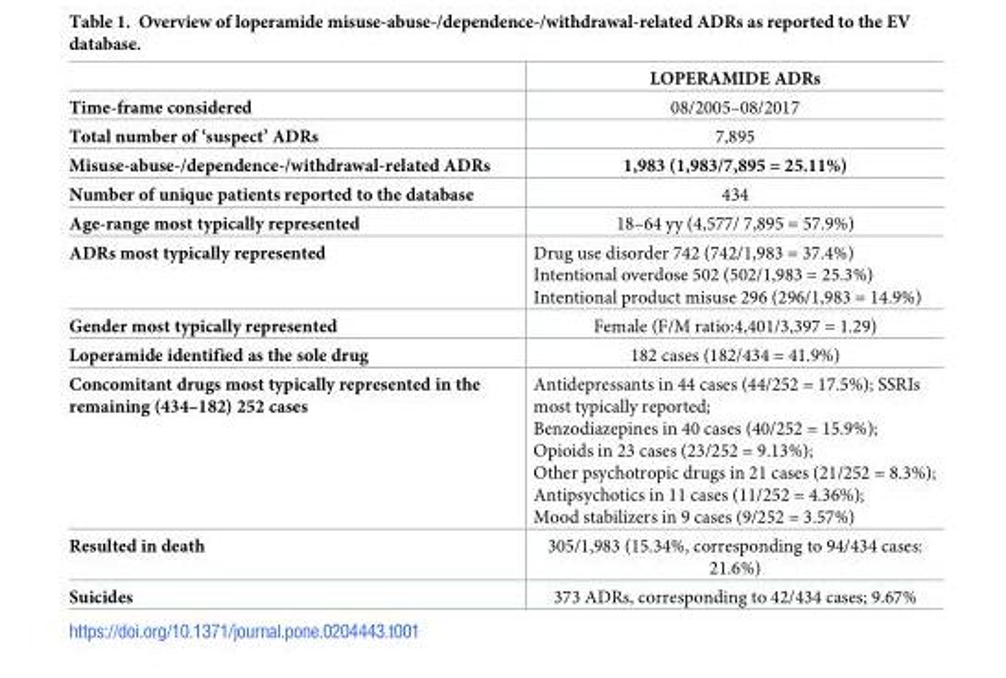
<table><thead><tr><td></td><td>LOPERAMIDE ADRs</td></tr></thead><tbody><tr><td>Time-frame considered</td><td>08/2005–08/2017</td></tr><tr><td>Total number of ‘suspect’ ADRs</td><td>7,895</td></tr><tr><td>Misuse-abuse-/dependence-/withdrawal-related ADRs</td><td>1,983 (1,983/7,895 = 25.11%)</td></tr><tr><td>Number of unique patients reported to the database</td><td>434</td></tr><tr><td>Age-range most typically represented</td><td>18–64 yy (4,577/ 7,895 = 57.9%)</td></tr><tr><td>ADRs most typically represented</td><td>Drug use disorder 742 (742/1,983 = 37.4%) Intentional overdose 502 (502/1,983 = 25.3%) Intentional product misuse 296 (296/1,983 = 14.9%)</td></tr><tr><td>Gender most typically represented</td><td>Female (F/M ratio:4,401/3,397 = 1.29)</td></tr><tr><td>Loperamide identified as the sole drug</td><td>182 cases (182/434 = 41.9%)</td></tr><tr><td>Concomitant drugs most typically represented in the remaining (434–182) 252 cases</td><td>Antidepressants in 44 cases (44/252 = 17.5%); SSRIs most typically reported; Benzodiazepines in 40 cases (40/252 = 15.9%); Opioids in 23 cases (23/252 = 9.13%); Other psychotropic drugs in 21 cases (21/252 = 8.3%); Antipsychotics in 11 cases (11/252 = 4.36%); Mood stabilizers in 9 cases (9/252 = 3.57%)</td></tr><tr><td>Resulted in death</td><td>305/1,983 (15.34%, corresponding to 94/434 cases: 21.6%)</td></tr><tr><td>Suicides</td><td>373 ADRs, corresponding to 42/434 cases; 9.67%</td></tr></tbody></table>